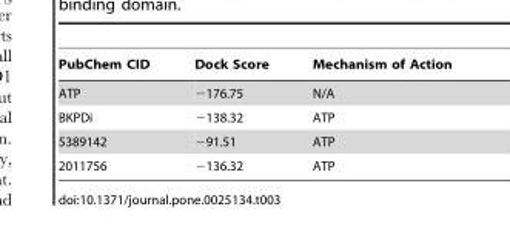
<table><thead><tr><td>PubChem CID</td><td>Dock Score</td><td>Mechanism of Action</td></tr></thead><tbody><tr><td>ATP</td><td>−176.75</td><td>N/A</td></tr><tr><td>BKPDi</td><td>−138.32</td><td>ATP</td></tr><tr><td>5389142</td><td>−91.51</td><td>ATP</td></tr><tr><td>2011756</td><td>−136.32</td><td>ATP</td></tr></tbody></table>